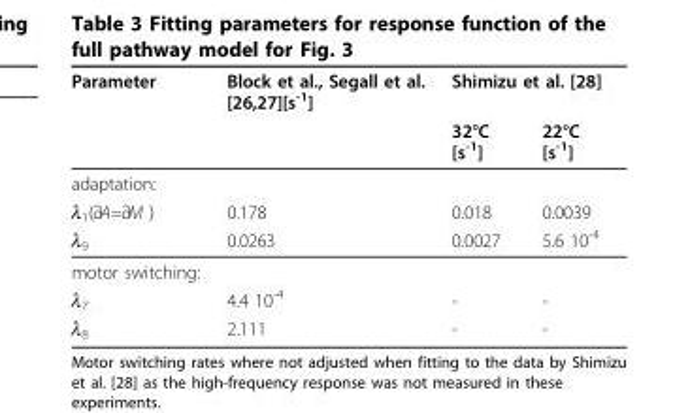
<table><thead><tr><td rowspan="2">Parameter</td><td rowspan="2">Block et al., Segall et al. [26,27][s<sup>-1</sup>]</td><td colspan="2">Shimizu et al. [28]</td></tr><tr><td>32°C [s<sup>-1</sup>]</td><td>22°C [s<sup>-1</sup>]</td></tr></thead><tbody><tr><td colspan="4">adaptation:</td></tr><tr><td>λ<sub>1</sub>(∂A=∂M )</td><td>0.178</td><td>0.018</td><td>0.0039</td></tr><tr><td>λ<sub>9</sub></td><td>0.0263</td><td>0.0027</td><td>5.6 10<sup>-4</sup></td></tr><tr><td colspan="4">motor switching:</td></tr><tr><td>λ<sub>7</sub></td><td>4.4 10<sup>-4</sup></td><td>-</td><td>-</td></tr><tr><td>λ<sub>8</sub></td><td>2.111</td><td>-</td><td>-</td></tr></tbody></table>